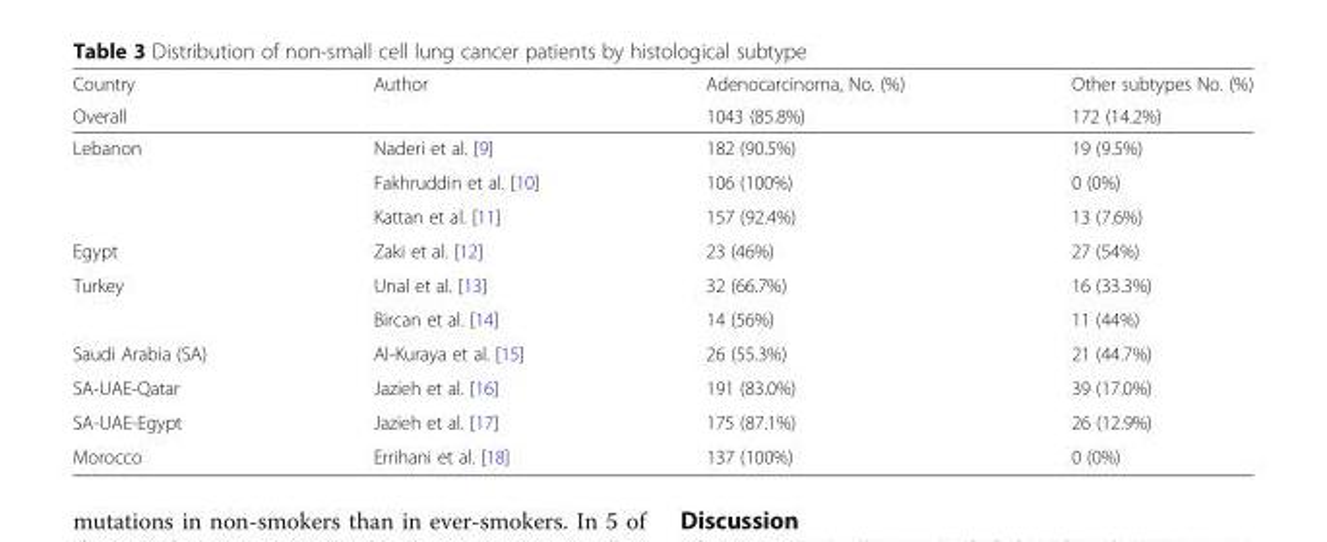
<table><thead><tr><td rowspan="2">Country Overall</td><td rowspan="2">Author</td><td rowspan="2">Adenocarcinoma, No. (%) 1043 (85.8%)</td><td rowspan="2">Other subtypes No. (%) 172 (14.2%)</td></tr><tr></tr></thead><tbody><tr><td rowspan="3">Lebanon</td><td>Naderi et al. [9]</td><td>182 (90.5%)</td><td>19 (9.5%)</td></tr><tr><td>Fakhruddin et al. [10]</td><td>106 (100%)</td><td>0 (0%)</td></tr><tr><td>Kattan et al. [11]</td><td>157 (92.4%)</td><td>13 (7.6%)</td></tr><tr><td>Egypt</td><td>Zaki et al. [12]</td><td>23 (46%)</td><td>27 (54%)</td></tr><tr><td rowspan="2">Turkey</td><td>Unal et al. [13]</td><td>32 (66.7%)</td><td>16 (33.3%)</td></tr><tr><td>Bircan et al. [14]</td><td>14 (56%)</td><td>11 (44%)</td></tr><tr><td>Saudi Arabia (SA)</td><td>Al-Kuraya et al. [15]</td><td>26 (55.3%)</td><td>21 (44.7%)</td></tr><tr><td>SA-UAE-Qatar</td><td>Jazieh et al. [16]</td><td>191 (83.0%)</td><td>39 (17.0%)</td></tr><tr><td>SA-UAE-Egypt</td><td>Jazieh et al. [17]</td><td>175 (87.1%)</td><td>26 (12.9%)</td></tr><tr><td>Morocco</td><td>Errihani et al. [18]</td><td>137 (100%)</td><td>0 (0%)</td></tr></tbody></table>